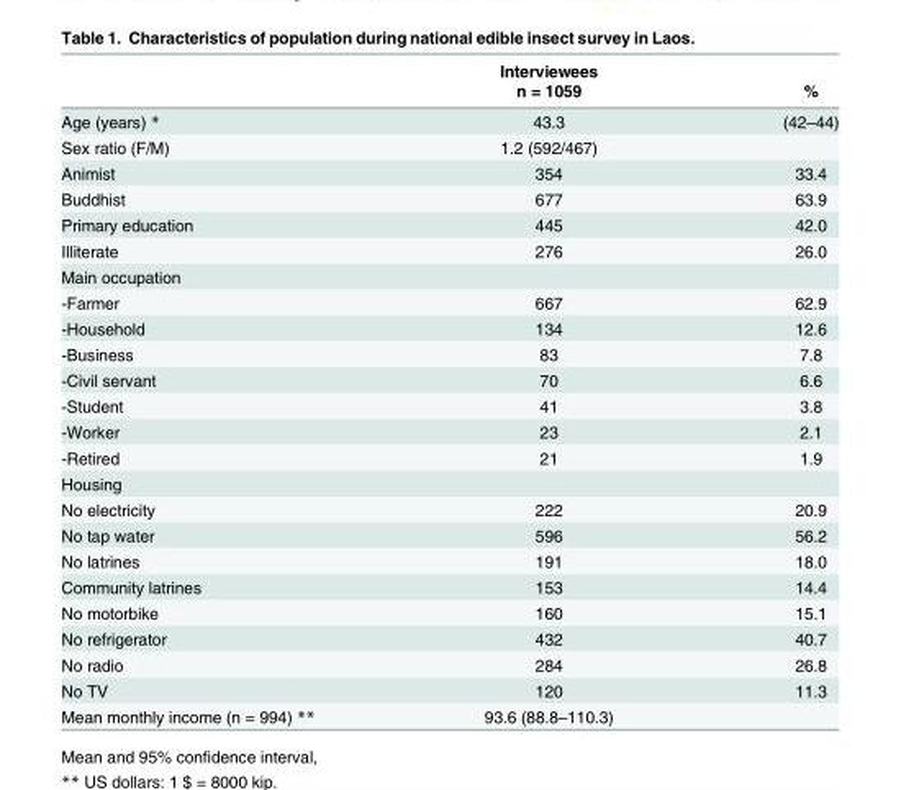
<table><thead><tr><td rowspan="2"></td><td rowspan="2">Interviewees n = 1059</td><td rowspan="2">%</td></tr><tr></tr></thead><tbody><tr><td>Age (years) *</td><td>43.3</td><td>(42–44)</td></tr><tr><td>Sex ratio (F/M)</td><td>1.2 (592/467)</td><td></td></tr><tr><td>Animist</td><td>354</td><td>33.4</td></tr><tr><td>Buddhist</td><td>677</td><td>63.9</td></tr><tr><td>Primary education</td><td>445</td><td>42.0</td></tr><tr><td>Illiterate</td><td>276</td><td>26.0</td></tr><tr><td colspan="3">Main occupation</td></tr><tr><td>-Farmer</td><td>667</td><td>62.9</td></tr><tr><td>-Household</td><td>134</td><td>12.6</td></tr><tr><td>-Business</td><td>83</td><td>7.8</td></tr><tr><td>-Civil servant</td><td>70</td><td>6.6</td></tr><tr><td>-Student</td><td>41</td><td>3.8</td></tr><tr><td>-Worker</td><td>23</td><td>2.1</td></tr><tr><td>-Retired</td><td>21</td><td>1.9</td></tr><tr><td colspan="3">Housing</td></tr><tr><td>No electricity</td><td>222</td><td>20.9</td></tr><tr><td>No tap water</td><td>596</td><td>56.2</td></tr><tr><td>No latrines</td><td>191</td><td>18.0</td></tr><tr><td>Community latrines</td><td>153</td><td>14.4</td></tr><tr><td>No motorbike</td><td>160</td><td>15.1</td></tr><tr><td>No refrigerator</td><td>432</td><td>40.7</td></tr><tr><td>No radio</td><td>284</td><td>26.8</td></tr><tr><td>No TV</td><td>120</td><td>11.3</td></tr><tr><td>Mean monthly income (n = 994) **</td><td>93.6 (88.8–110.3)</td><td></td></tr></tbody></table>